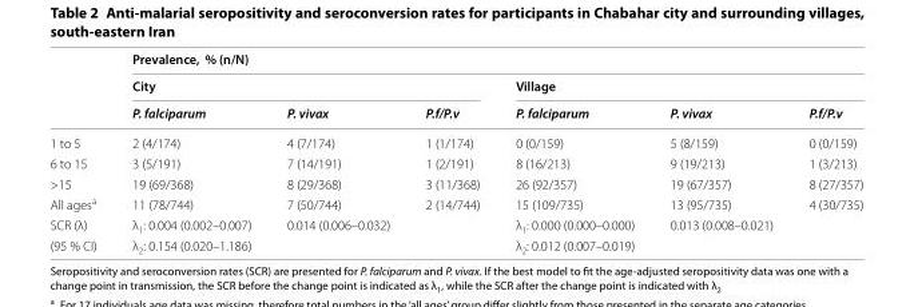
<table><thead><tr><td rowspan="3"></td><td colspan="6">Prevalence, % (n/N)</td></tr><tr><td colspan="3">City</td><td colspan="3">Village</td></tr><tr><td>P. falciparum</td><td>P. vivax</td><td>P.f/P.v</td><td>P. falciparum</td><td>P. vivax</td><td>P.f/P.v</td></tr></thead><tbody><tr><td>1 to 5</td><td>2 (4/174)</td><td>4 (7/174)</td><td>1 (1/174)</td><td>0 (0/159)</td><td>5 (8/159)</td><td>0 (0/159)</td></tr><tr><td>6 to 15</td><td>3 (5/191)</td><td>7 (14/191)</td><td>1 (2/191)</td><td>8 (16/213)</td><td>9 (19/213)</td><td>1 (3/213)</td></tr><tr><td>&gt;15</td><td>19 (69/368)</td><td>8 (29/368)</td><td>3 (11/368)</td><td>26 (92/357)</td><td>19 (67/357)</td><td>8 (27/357)</td></tr><tr><td>All ages<sup>a</sup></td><td>11 (78/744)</td><td>7 (50/744)</td><td>2 (14/744)</td><td>15 (109/735)</td><td>13 (95/735)</td><td>4 (30/735)</td></tr><tr><td>SCR (λ)</td><td>λ<sub>1</sub>: 0.004 (0.002–0.007)</td><td>0.014 (0.006–0.032)</td><td></td><td>λ<sub>1</sub>: 0.000 (0.000–0.000)</td><td>0.013 (0.008–0.021)</td><td></td></tr><tr><td>(95 % CI)</td><td>λ<sub>2</sub>: 0.154 (0.020–1.186)</td><td></td><td></td><td>λ<sub>2</sub>: 0.012 (0.007–0.019)</td><td></td><td></td></tr></tbody></table>